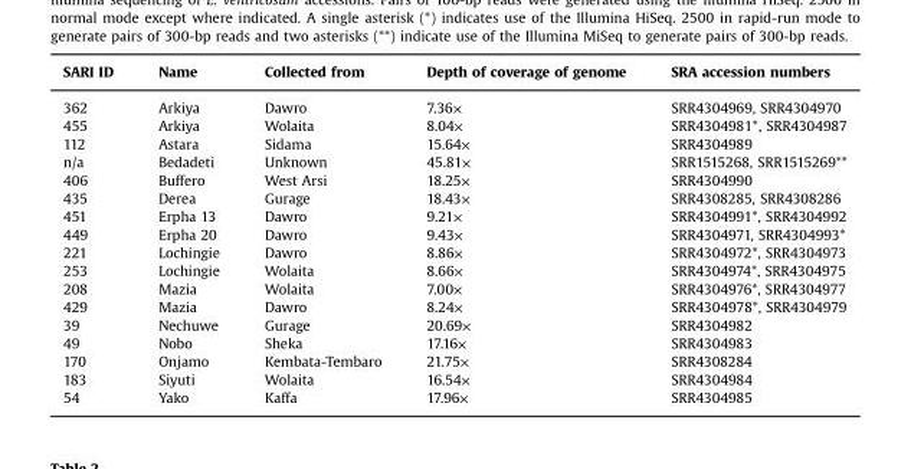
<table><thead><tr><td>SARI ID</td><td>Name</td><td>Collected from</td><td>Depth of coverage of genome</td><td>SRA accession numbers</td></tr></thead><tbody><tr><td>362</td><td>Arkiya</td><td>Dawro</td><td>7.36×</td><td>SRR4304969, SRR4304970</td></tr><tr><td>455</td><td>Arkiya</td><td>Wolaita</td><td>8.04×</td><td>SRR4304981*, SRR4304987</td></tr><tr><td>112</td><td>Astara</td><td>Sidama</td><td>15.64×</td><td>SRR4304989</td></tr><tr><td>n/a</td><td>Bedadeti</td><td>Unknown</td><td>45.81×</td><td>SRR1515268, SRR1515269**</td></tr><tr><td>406</td><td>Buffero</td><td>West Arsi</td><td>18.25×</td><td>SRR4304990</td></tr><tr><td>435</td><td>Derea</td><td>Gurage</td><td>18.43×</td><td>SRR4308285, SRR4308286</td></tr><tr><td>451</td><td>Erpha 13</td><td>Dawro</td><td>9.21×</td><td>SRR4304991*, SRR4304992</td></tr><tr><td>449</td><td>Erpha 20</td><td>Dawro</td><td>9.43×</td><td>SRR4304971, SRR4304993*</td></tr><tr><td>221</td><td>Lochingie</td><td>Dawro</td><td>8.86×</td><td>SRR4304972*, SRR4304973</td></tr><tr><td>253</td><td>Lochingie</td><td>Wolaita</td><td>8.66×</td><td>SRR4304974*, SRR4304975</td></tr><tr><td>208</td><td>Mazia</td><td>Wolaita</td><td>7.00×</td><td>SRR4304976*, SRR4304977</td></tr><tr><td>429</td><td>Mazia</td><td>Dawro</td><td>8.24×</td><td>SRR4304978*, SRR4304979</td></tr><tr><td>39</td><td>Nechuwe</td><td>Gurage</td><td>20.69×</td><td>SRR4304982</td></tr><tr><td>49</td><td>Nobo</td><td>Sheka</td><td>17.16×</td><td>SRR4304983</td></tr><tr><td>170</td><td>Onjamo</td><td>Kembata-Tembaro</td><td>21.75×</td><td>SRR4308284</td></tr><tr><td>183</td><td>Siyuti</td><td>Wolaita</td><td>16.54×</td><td>SRR4304984</td></tr><tr><td>54</td><td>Yako</td><td>Kaffa</td><td>17.96×</td><td>SRR4304985</td></tr></tbody></table>